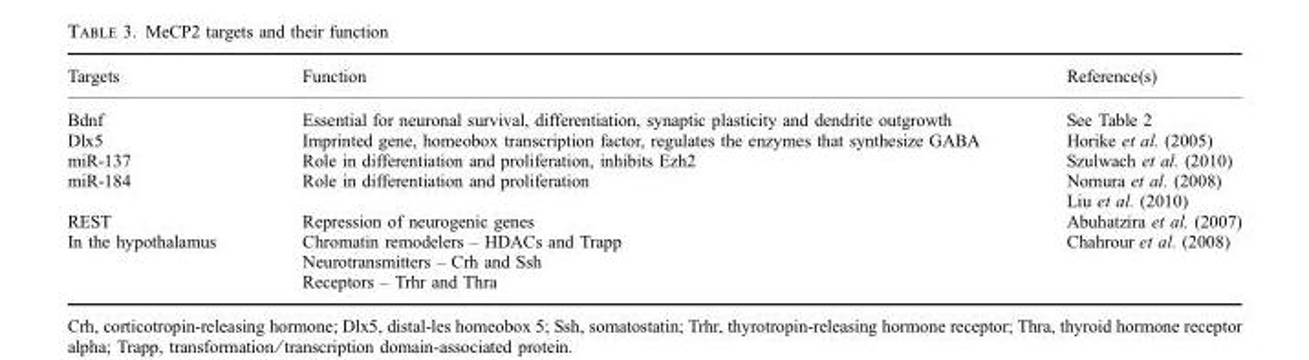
<table><thead><tr><td>Targets</td><td>Function</td><td>Reference(s)</td></tr></thead><tbody><tr><td>Bdnf</td><td>Essential for neuronal survival, differentiation, synaptic plasticity and dendrite outgrowth</td><td>See Table 2</td></tr><tr><td>Dlx5</td><td>Imprinted gene, homeobox transcription factor, regulates the enzymes that synthesize GABA</td><td>Horike et al. (2005)</td></tr><tr><td>miR-137</td><td>Role in differentiation and proliferation, inhibits Ezh2</td><td>Szulwach et al. (2010)</td></tr><tr><td rowspan="2">miR-184</td><td>Role in differentiation and proliferation</td><td>Nomura et al. (2008)</td></tr><tr><td></td><td>Liu et al. (2010)</td></tr><tr><td>REST</td><td>Repression of neurogenic genes</td><td>Abuhatzira et al. (2007)</td></tr><tr><td rowspan="3">In the hypothalamus</td><td>Chromatin remodelers – HDACs and Trapp</td><td>Chahrour et al. (2008)</td></tr><tr><td>Neurotransmitters – Crh and Ssh</td><td></td></tr><tr><td>Receptors – Trhr and Thra</td><td></td></tr></tbody></table>